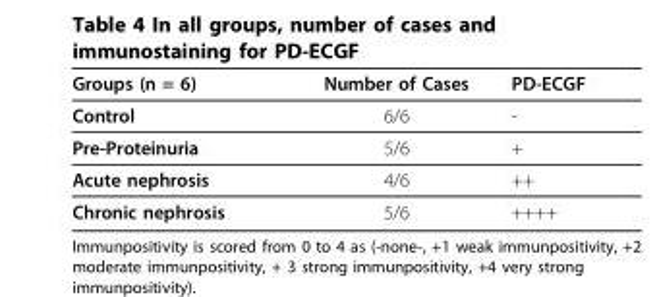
<table><thead><tr><td>Groups (n = 6)</td><td>Number of Cases</td><td>PD-ECGF</td></tr></thead><tbody><tr><td>Control</td><td>6/6</td><td>-</td></tr><tr><td>Pre-Proteinuria</td><td>5/6</td><td>+</td></tr><tr><td>Acute nephrosis</td><td>4/6</td><td>++</td></tr><tr><td>Chronic nephrosis</td><td>5/6</td><td>++++</td></tr></tbody></table>